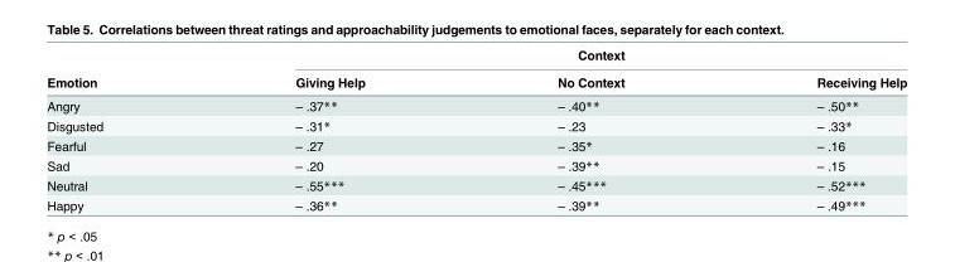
<table><thead><tr><td rowspan="2">Emotion</td><td colspan="3">Context</td></tr><tr><td>Giving Help</td><td>No Context</td><td>Receiving Help</td></tr></thead><tbody><tr><td>Angry</td><td>– .37**</td><td>– .40**</td><td>– .50**</td></tr><tr><td>Disgusted</td><td>– .31*</td><td>– .23</td><td>– .33*</td></tr><tr><td>Fearful</td><td>– .27</td><td>– .35*</td><td>– .16</td></tr><tr><td>Sad</td><td>– .20</td><td>– .39**</td><td>– .15</td></tr><tr><td>Neutral</td><td>– .55***</td><td>– .45***</td><td>– .52***</td></tr><tr><td>Happy</td><td>– .36**</td><td>– .39**</td><td>– .49***</td></tr></tbody></table>